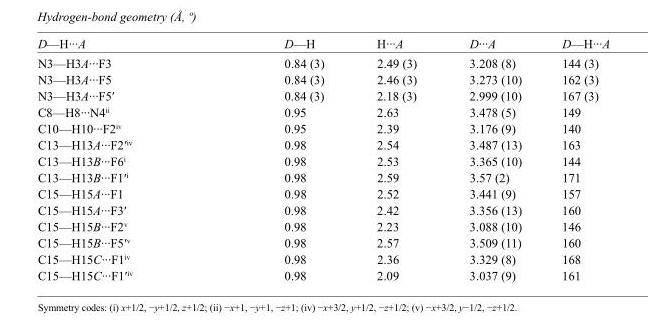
<table><tbody><tr><td>D—H···A</td><td>D—H</td><td>H···A</td><td>D···A</td><td>D—H···A</td></tr><tr><td>N3—H3A···F3</td><td>0.84 (3)</td><td>2.49 (3)</td><td>3.208 (8)</td><td>144 (3)</td></tr><tr><td>N3—H3A···F5</td><td>0.84 (3)</td><td>2.46 (3)</td><td>3.273 (10)</td><td>162 (3)</td></tr><tr><td>N3—H3A···F5′</td><td>0.84 (3)</td><td>2.18 (3)</td><td>2.999 (10)</td><td>167 (3)</td></tr><tr><td>C8—H8···N4<sup>ii</sup></td><td>0.95</td><td>2.63</td><td>3.478 (5)</td><td>149</td></tr><tr><td>C10—H10···F2<sup>iv</sup></td><td>0.95</td><td>2.39</td><td>3.176 (9)</td><td>140</td></tr><tr><td>C13—H13A···F2′<sup>iv</sup></td><td>0.98</td><td>2.54</td><td>3.487 (13)</td><td>163</td></tr><tr><td>C13—H13B···F6<sup>i</sup></td><td>0.98</td><td>2.53</td><td>3.365 (10)</td><td>144</td></tr><tr><td>C13—H13B···F1′<sup>i</sup></td><td>0.98</td><td>2.59</td><td>3.57 (2)</td><td>171</td></tr><tr><td>C15—H15A···F1</td><td>0.98</td><td>2.52</td><td>3.441 (9)</td><td>157</td></tr><tr><td>C15—H15A···F3′</td><td>0.98</td><td>2.42</td><td>3.356 (13)</td><td>160</td></tr><tr><td>C15—H15B···F2<sup>v</sup></td><td>0.98</td><td>2.23</td><td>3.088 (10)</td><td>146</td></tr><tr><td>C15—H15B···F5′<sup>v</sup></td><td>0.98</td><td>2.57</td><td>3.509 (11)</td><td>160</td></tr><tr><td>C15—H15C···F1<sup>iv</sup></td><td>0.98</td><td>2.36</td><td>3.329 (8)</td><td>168</td></tr><tr><td>C15—H15C···F1′<sup>iv</sup></td><td>0.98</td><td>2.09</td><td>3.037 (9)</td><td>161</td></tr></tbody></table>